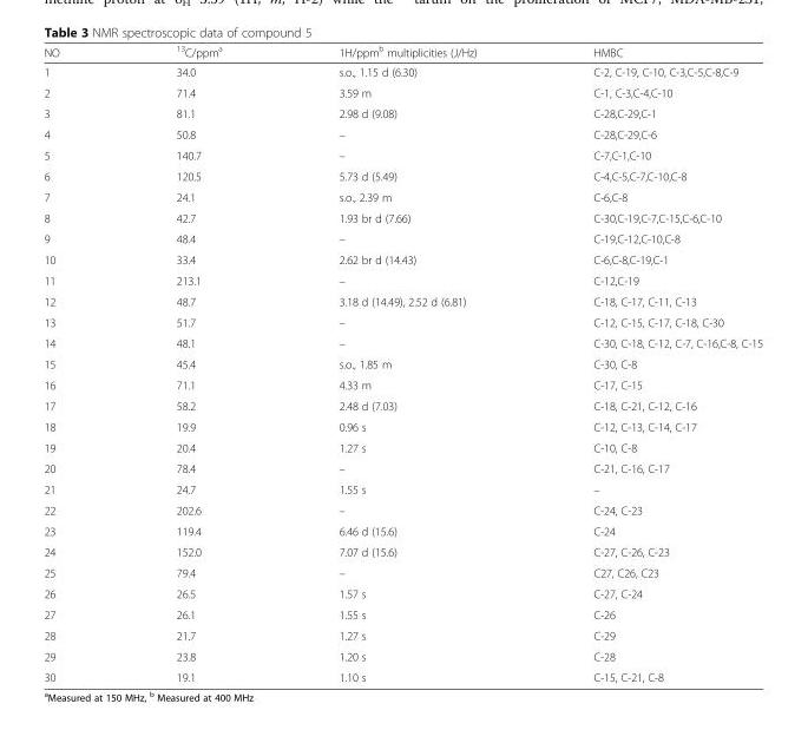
<table><thead><tr><td>NO</td><td><sup>13</sup>C/ppm<sup>a</sup></td><td>1H/ppm<sup>b</sup> multiplicities (J/Hz)</td><td>HMBC</td></tr></thead><tbody><tr><td>1</td><td>34.0</td><td>s.o., 1.15 d (6.30)</td><td>C-2, C-19, C-10, C-3,C-5,C-8,C-9</td></tr><tr><td>2</td><td>71.4</td><td>3.59 m</td><td>C-1, C-3,C-4,C-10</td></tr><tr><td>3</td><td>81.1</td><td>2.98 d (9.08)</td><td>C-28,C-29,C-1</td></tr><tr><td>4</td><td>50.8</td><td>–</td><td>C-28,C-29,C-6</td></tr><tr><td>5</td><td>140.7</td><td>–</td><td>C-7,C-1,C-10</td></tr><tr><td>6</td><td>120.5</td><td>5.73 d (5.49)</td><td>C-4,C-5,C-7,C-10,C-8</td></tr><tr><td>7</td><td>24.1</td><td>s.o., 2.39 m</td><td>C-6,C-8</td></tr><tr><td>8</td><td>42.7</td><td>1.93 br d (7.66)</td><td>C-30,C-19,C-7,C-15,C-6,C-10</td></tr><tr><td>9</td><td>48.4</td><td>–</td><td>C-19,C-12,C-10,C-8</td></tr><tr><td>10</td><td>33.4</td><td>2.62 br d (14.43)</td><td>C-6,C-8,C-19,C-1</td></tr><tr><td>11</td><td>213.1</td><td>–</td><td>C-12,C-19</td></tr><tr><td>12</td><td>48.7</td><td>3.18 d (14.49), 2.52 d (6.81)</td><td>C-18, C-17, C-11, C-13</td></tr><tr><td>13</td><td>51.7</td><td>–</td><td>C-12, C-15, C-17, C-18, C-30</td></tr><tr><td>14</td><td>48.1</td><td>–</td><td>C-30, C-18, C-12, C-7, C-16,C-8, C-15</td></tr><tr><td>15</td><td>45.4</td><td>s.o., 1.85 m</td><td>C-30, C-8</td></tr><tr><td>16</td><td>71.1</td><td>4.33 m</td><td>C-17, C-15</td></tr><tr><td>17</td><td>58.2</td><td>2.48 d (7.03)</td><td>C-18, C-21, C-12, C-16</td></tr><tr><td>18</td><td>19.9</td><td>0.96 s</td><td>C-12, C-13, C-14, C-17</td></tr><tr><td>19</td><td>20.4</td><td>1.27 s</td><td>C-10, C-8</td></tr><tr><td>20</td><td>78.4</td><td>–</td><td>C-21, C-16, C-17</td></tr><tr><td>21</td><td>24.7</td><td>1.55 s</td><td>–</td></tr><tr><td>22</td><td>202.6</td><td>–</td><td>C-24, C-23</td></tr><tr><td>23</td><td>119.4</td><td>6.46 d (15.6)</td><td>C-24</td></tr><tr><td>24</td><td>152.0</td><td>7.07 d (15.6)</td><td>C-27, C-26, C-23</td></tr><tr><td>25</td><td>79.4</td><td>–</td><td>C27, C26, C23</td></tr><tr><td>26</td><td>26.5</td><td>1.57 s</td><td>C-27, C-24</td></tr><tr><td>27</td><td>26.1</td><td>1.55 s</td><td>C-26</td></tr><tr><td>28</td><td>21.7</td><td>1.27 s</td><td>C-29</td></tr><tr><td>29</td><td>23.8</td><td>1.20 s</td><td>C-28</td></tr><tr><td>30</td><td>19.1</td><td>1.10 s</td><td>C-15, C-21, C-8</td></tr></tbody></table>